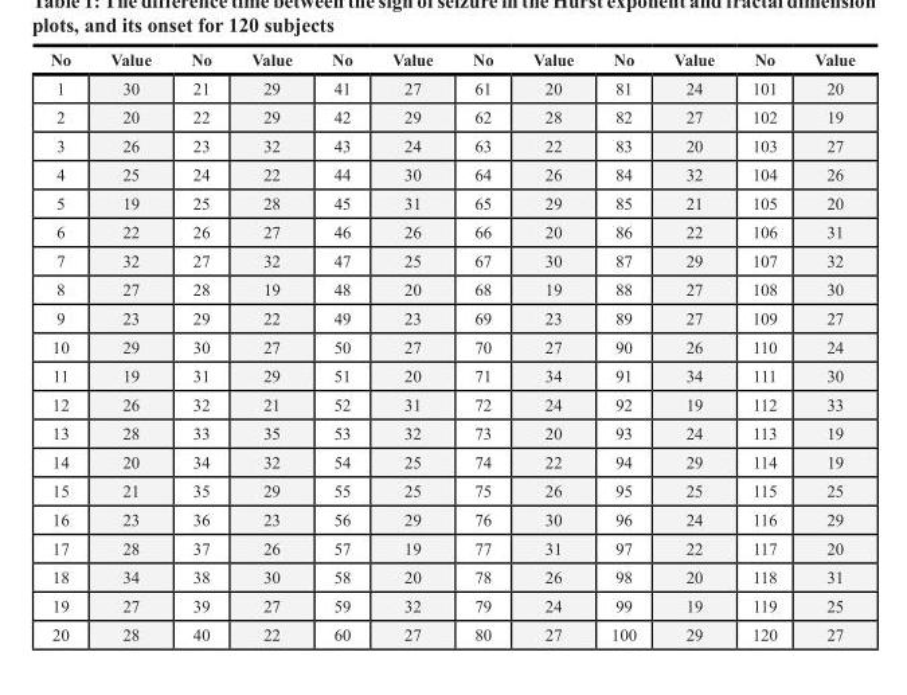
<table><thead><tr><td>No</td><td>Value</td><td>No</td><td>Value</td><td>No</td><td>Value</td><td>No</td><td>Value</td><td>No</td><td>Value</td><td>No</td><td>Value</td></tr></thead><tbody><tr><td>1</td><td>30</td><td>21</td><td>29</td><td>41</td><td>27</td><td>61</td><td>20</td><td>81</td><td>24</td><td>101</td><td>20</td></tr><tr><td>2</td><td>20</td><td>22</td><td>29</td><td>42</td><td>29</td><td>62</td><td>28</td><td>82</td><td>27</td><td>102</td><td>19</td></tr><tr><td>3</td><td>26</td><td>23</td><td>32</td><td>43</td><td>24</td><td>63</td><td>22</td><td>83</td><td>20</td><td>103</td><td>27</td></tr><tr><td>4</td><td>25</td><td>24</td><td>22</td><td>44</td><td>30</td><td>64</td><td>26</td><td>84</td><td>32</td><td>104</td><td>26</td></tr><tr><td>5</td><td>19</td><td>25</td><td>28</td><td>45</td><td>31</td><td>65</td><td>29</td><td>85</td><td>21</td><td>105</td><td>20</td></tr><tr><td>6</td><td>22</td><td>26</td><td>27</td><td>46</td><td>26</td><td>66</td><td>20</td><td>86</td><td>22</td><td>106</td><td>31</td></tr><tr><td>7</td><td>32</td><td>27</td><td>32</td><td>47</td><td>25</td><td>67</td><td>30</td><td>87</td><td>29</td><td>107</td><td>32</td></tr><tr><td>8</td><td>27</td><td>28</td><td>19</td><td>48</td><td>20</td><td>68</td><td>19</td><td>88</td><td>27</td><td>108</td><td>30</td></tr><tr><td>9</td><td>23</td><td>29</td><td>22</td><td>49</td><td>23</td><td>69</td><td>23</td><td>89</td><td>27</td><td>109</td><td>27</td></tr><tr><td>10</td><td>29</td><td>30</td><td>27</td><td>50</td><td>27</td><td>70</td><td>27</td><td>90</td><td>26</td><td>110</td><td>24</td></tr><tr><td>11</td><td>19</td><td>31</td><td>29</td><td>51</td><td>20</td><td>71</td><td>34</td><td>91</td><td>34</td><td>111</td><td>30</td></tr><tr><td>12</td><td>26</td><td>32</td><td>21</td><td>52</td><td>31</td><td>72</td><td>24</td><td>92</td><td>19</td><td>112</td><td>33</td></tr><tr><td>13</td><td>28</td><td>33</td><td>35</td><td>53</td><td>32</td><td>73</td><td>20</td><td>93</td><td>24</td><td>113</td><td>19</td></tr><tr><td>14</td><td>20</td><td>34</td><td>32</td><td>54</td><td>25</td><td>74</td><td>22</td><td>94</td><td>29</td><td>114</td><td>19</td></tr><tr><td>15</td><td>21</td><td>35</td><td>29</td><td>55</td><td>25</td><td>75</td><td>26</td><td>95</td><td>25</td><td>115</td><td>25</td></tr><tr><td>16</td><td>23</td><td>36</td><td>23</td><td>56</td><td>29</td><td>76</td><td>30</td><td>96</td><td>24</td><td>116</td><td>29</td></tr><tr><td>17</td><td>28</td><td>37</td><td>26</td><td>57</td><td>19</td><td>77</td><td>31</td><td>97</td><td>22</td><td>117</td><td>20</td></tr><tr><td>18</td><td>34</td><td>38</td><td>30</td><td>58</td><td>20</td><td>78</td><td>26</td><td>98</td><td>20</td><td>118</td><td>31</td></tr><tr><td>19</td><td>27</td><td>39</td><td>27</td><td>59</td><td>32</td><td>79</td><td>24</td><td>99</td><td>19</td><td>119</td><td>25</td></tr><tr><td>20</td><td>28</td><td>40</td><td>22</td><td>60</td><td>27</td><td>80</td><td>27</td><td>100</td><td>29</td><td>120</td><td>27</td></tr></tbody></table>